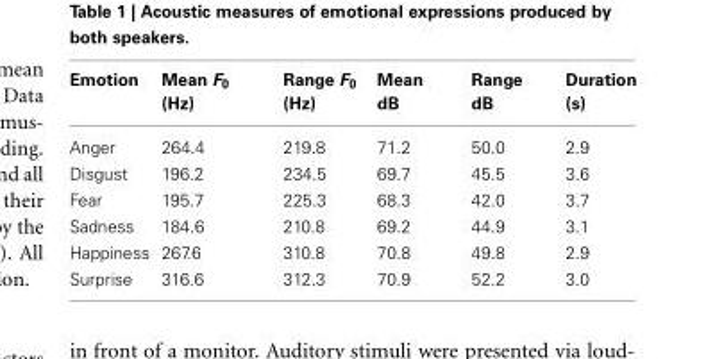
<table><thead><tr><td>Emotion</td><td>Mean F<sub>0</sub> (Hz)</td><td>Range F<sub>0</sub> (Hz)</td><td>Mean dB</td><td>Range dB</td><td>Duration (s)</td></tr></thead><tbody><tr><td>Anger</td><td>264.4</td><td>219.8</td><td>71.2</td><td>50.0</td><td>2.9</td></tr><tr><td>Disgust</td><td>196.2</td><td>234.5</td><td>69.7</td><td>45.5</td><td>3.6</td></tr><tr><td>Fear</td><td>195.7</td><td>225.3</td><td>68.3</td><td>42.0</td><td>3.7</td></tr><tr><td>Sadness</td><td>184.6</td><td>210.8</td><td>69.2</td><td>44.9</td><td>3.1</td></tr><tr><td>Happiness</td><td>267.6</td><td>310.8</td><td>70.8</td><td>49.8</td><td>2.9</td></tr><tr><td>Surprise</td><td>316.6</td><td>312.3</td><td>70.9</td><td>52.2</td><td>3.0</td></tr></tbody></table>